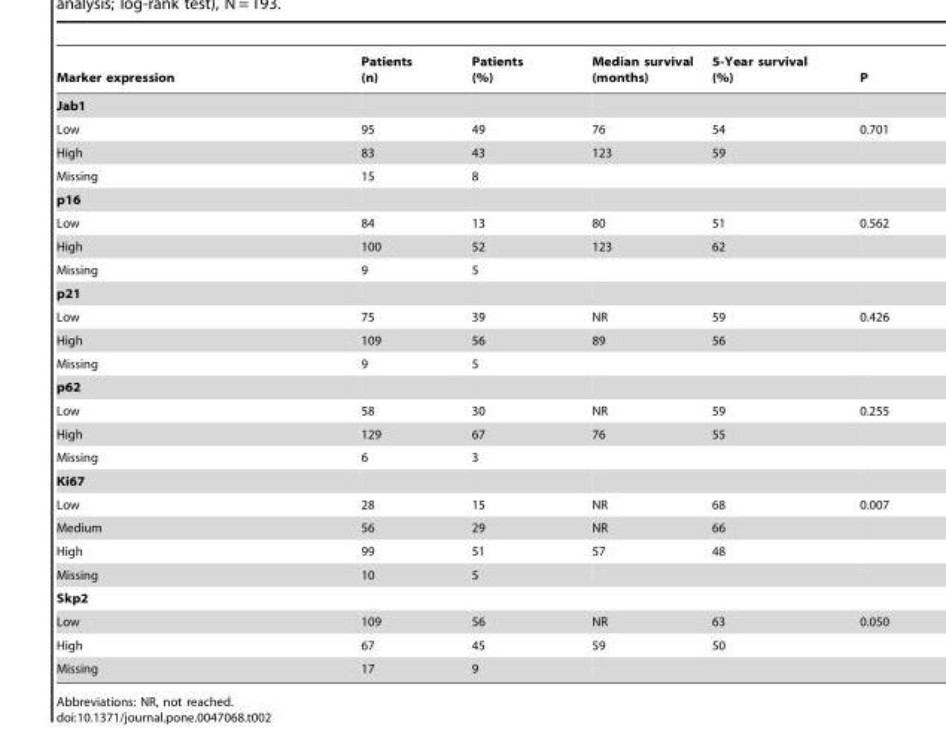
<table><thead><tr><td>Marker expression</td><td>Patients (n)</td><td>Patients (%)</td><td>Median survival (months)</td><td>5-Year survival (%)</td><td>P</td></tr></thead><tbody><tr><td colspan="6">Jab1</td></tr><tr><td>Low</td><td>95</td><td>49</td><td>76</td><td>54</td><td>0.701</td></tr><tr><td>High</td><td>83</td><td>43</td><td>123</td><td>59</td><td></td></tr><tr><td>Missing</td><td>15</td><td>8</td><td></td><td></td><td></td></tr><tr><td colspan="6">p16</td></tr><tr><td>Low</td><td>84</td><td>13</td><td>80</td><td>51</td><td>0.562</td></tr><tr><td>High</td><td>100</td><td>52</td><td>123</td><td>62</td><td></td></tr><tr><td>Missing</td><td>9</td><td>5</td><td></td><td></td><td></td></tr><tr><td colspan="6">p21</td></tr><tr><td>Low</td><td>75</td><td>39</td><td>NR</td><td>59</td><td>0.426</td></tr><tr><td>High</td><td>109</td><td>56</td><td>89</td><td>56</td><td></td></tr><tr><td>Missing</td><td>9</td><td>5</td><td></td><td></td><td></td></tr><tr><td colspan="6">p62</td></tr><tr><td>Low</td><td>58</td><td>30</td><td>NR</td><td>59</td><td>0.255</td></tr><tr><td>High</td><td>129</td><td>67</td><td>76</td><td>55</td><td></td></tr><tr><td>Missing</td><td>6</td><td>3</td><td></td><td></td><td></td></tr><tr><td colspan="6">Ki67</td></tr><tr><td>Low</td><td>28</td><td>15</td><td>NR</td><td>68</td><td>0.007</td></tr><tr><td>Medium</td><td>56</td><td>29</td><td>NR</td><td>66</td><td></td></tr><tr><td>High</td><td>99</td><td>51</td><td>57</td><td>48</td><td></td></tr><tr><td>Missing</td><td>10</td><td>5</td><td></td><td></td><td></td></tr><tr><td colspan="6">Skp2</td></tr><tr><td>Low</td><td>109</td><td>56</td><td>NR</td><td>63</td><td>0.050</td></tr><tr><td>High</td><td>67</td><td>45</td><td>59</td><td>50</td><td></td></tr><tr><td>Missing</td><td>17</td><td>9</td><td></td><td></td><td></td></tr></tbody></table>